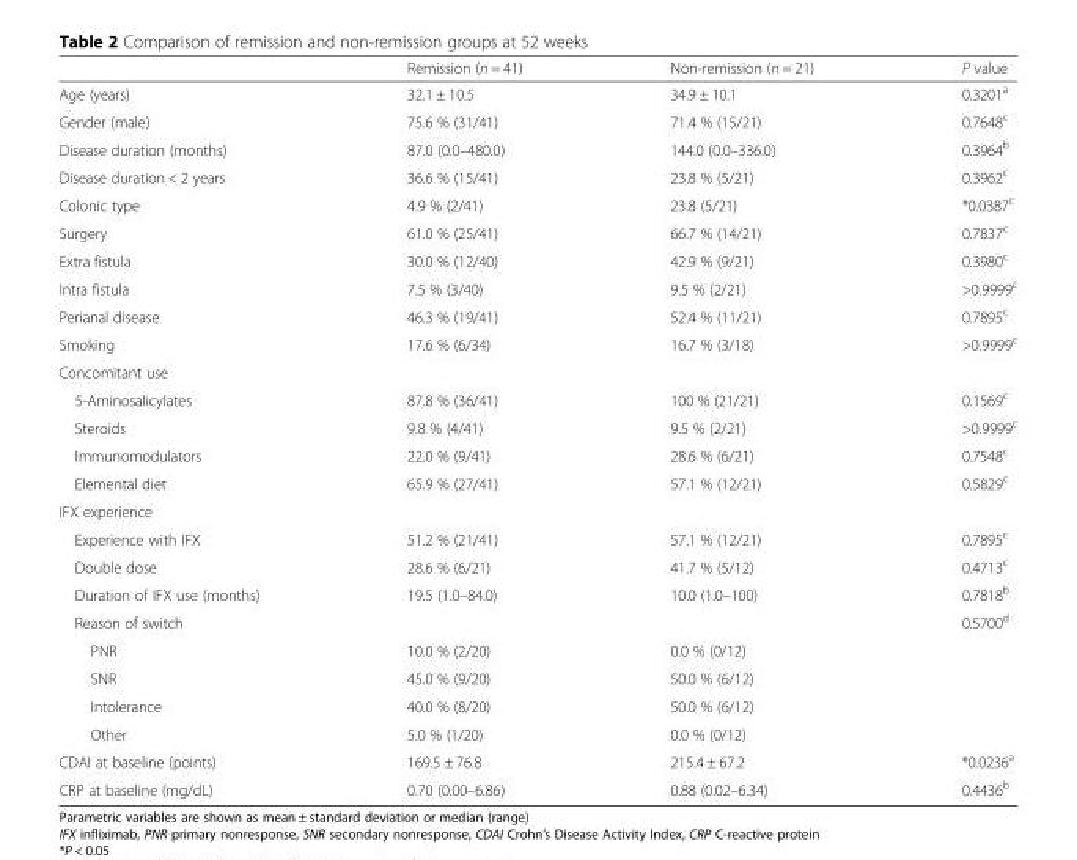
<table><thead><tr><td></td><td>Remission (n = 41)</td><td>Non-remission (n = 21)</td><td>P value</td></tr></thead><tbody><tr><td>Age (years)</td><td>32.1 ± 10.5</td><td>34.9 ± 10.1</td><td>0.3201<sup>a</sup></td></tr><tr><td>Gender (male)</td><td>75.6 % (31/41)</td><td>71.4 % (15/21)</td><td>0.7648<sup>c</sup></td></tr><tr><td>Disease duration (months)</td><td>87.0 (0.0–480.0)</td><td>144.0 (0.0–336.0)</td><td>0.3964<sup>b</sup></td></tr><tr><td>Disease duration &lt; 2 years</td><td>36.6 % (15/41)</td><td>23.8 % (5/21)</td><td>0.3962<sup>c</sup></td></tr><tr><td>Colonic type</td><td>4.9 % (2/41)</td><td>23.8 (5/21)</td><td>*0.0387<sup>c</sup></td></tr><tr><td>Surgery</td><td>61.0 % (25/41)</td><td>66.7 % (14/21)</td><td>0.7837<sup>c</sup></td></tr><tr><td>Extra fistula</td><td>30.0 % (12/40)</td><td>42.9 % (9/21)</td><td>0.3980<sup>c</sup></td></tr><tr><td>Intra fistula</td><td>7.5 % (3/40)</td><td>9.5 % (2/21)</td><td>&gt;0.9999<sup>c</sup></td></tr><tr><td>Perianal disease</td><td>46.3 % (19/41)</td><td>52.4 % (11/21)</td><td>0.7895<sup>c</sup></td></tr><tr><td>Smoking</td><td>17.6 % (6/34)</td><td>16.7 % (3/18)</td><td>&gt;0.9999<sup>c</sup></td></tr><tr><td colspan="4">Concomitant use</td></tr><tr><td>5-Aminosalicylates</td><td>87.8 % (36/41)</td><td>100 % (21/21)</td><td>0.1569<sup>c</sup></td></tr><tr><td>Steroids</td><td>9.8 % (4/41)</td><td>9.5 % (2/21)</td><td>&gt;0.9999<sup>c</sup></td></tr><tr><td>Immunomodulators</td><td>22.0 % (9/41)</td><td>28.6 % (6/21)</td><td>0.7548<sup>c</sup></td></tr><tr><td>Elemental diet</td><td>65.9 % (27/41)</td><td>57.1 % (12/21)</td><td>0.5829<sup>c</sup></td></tr><tr><td colspan="4">IFX experience</td></tr><tr><td>Experience with IFX</td><td>51.2 % (21/41)</td><td>57.1 % (12/21)</td><td>0.7895<sup>c</sup></td></tr><tr><td>Double dose</td><td>28.6 % (6/21)</td><td>41.7 % (5/12)</td><td>0.4713<sup>c</sup></td></tr><tr><td>Duration of IFX use (months)</td><td>19.5 (1.0–84.0)</td><td>10.0 (1.0–100)</td><td>0.7818<sup>b</sup></td></tr><tr><td>Reason of switch</td><td></td><td></td><td>0.5700<sup>d</sup></td></tr><tr><td>PNR</td><td>10.0 % (2/20)</td><td>0.0 % (0/12)</td><td></td></tr><tr><td>SNR</td><td>45.0 % (9/20)</td><td>50.0 % (6/12)</td><td></td></tr><tr><td>Intolerance</td><td>40.0 % (8/20)</td><td>50.0 % (6/12)</td><td></td></tr><tr><td>Other</td><td>5.0 % (1/20)</td><td>0.0 % (0/12)</td><td></td></tr><tr><td>CDAI at baseline (points)</td><td>169.5 ± 76.8</td><td>215.4 ± 67.2</td><td>*0.0236<sup>a</sup></td></tr><tr><td>CRP at baseline (mg/dL)</td><td>0.70 (0.00–6.86)</td><td>0.88 (0.02–6.34)</td><td>0.4436<sup>b</sup></td></tr></tbody></table>